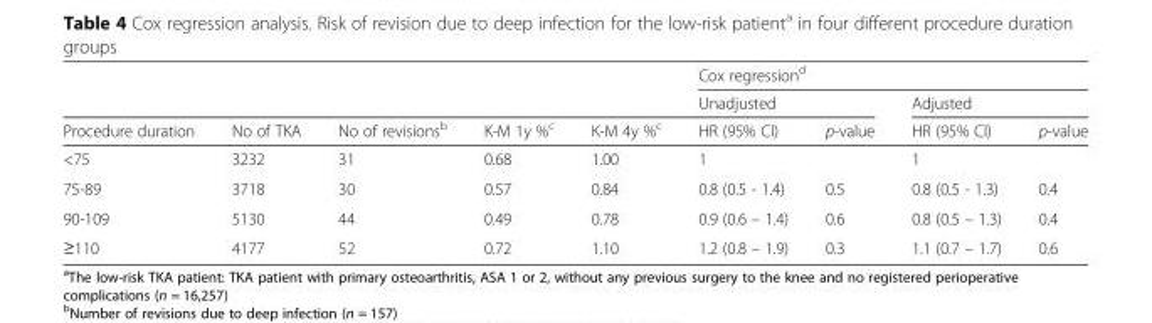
<table><thead><tr><td rowspan="3">Procedure duration</td><td rowspan="3">No of TKA</td><td rowspan="3">No of revisions<sup>b</sup></td><td rowspan="3">K-M 1y %<sup>c</sup></td><td rowspan="3">K-M 4y %<sup>c</sup></td><td colspan="4">Cox regression<sup>d</sup></td></tr><tr><td colspan="2">Unadjusted</td><td colspan="2">Adjusted</td></tr><tr><td>HR (95% CI)</td><td>p-value</td><td>HR (95% CI)</td><td>p-value</td></tr></thead><tbody><tr><td>&lt;75</td><td>3232</td><td>31</td><td>0.68</td><td>1.00</td><td>1</td><td></td><td>1</td><td></td></tr><tr><td>75-89</td><td>3718</td><td>30</td><td>0.57</td><td>0.84</td><td>0.8 (0.5 - 1.4)</td><td>0.5</td><td>0.8 (0.5 - 1.3)</td><td>0.4</td></tr><tr><td>90-109</td><td>5130</td><td>44</td><td>0.49</td><td>0.78</td><td>0.9 (0.6 – 1.4)</td><td>0.6</td><td>0.8 (0.5 – 1.3)</td><td>0.4</td></tr><tr><td>≥110</td><td>4177</td><td>52</td><td>0.72</td><td>1.10</td><td>1.2 (0.8 – 1.9)</td><td>0.3</td><td>1.1 (0.7 – 1.7)</td><td>0.6</td></tr></tbody></table>